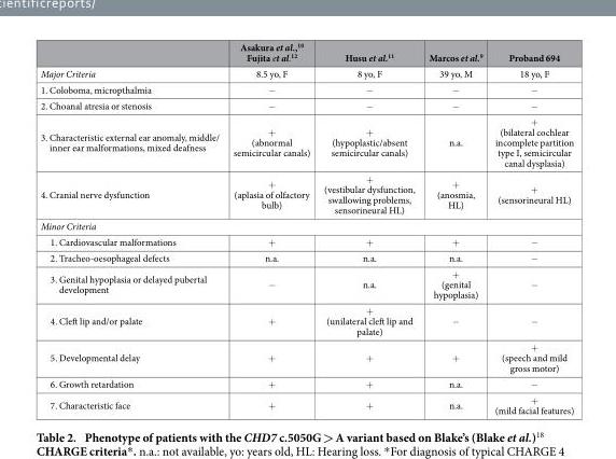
<table><thead><tr><td></td><td>Asakura et al.,<sup>10</sup> Fujita et al.<sup>12</sup></td><td>Husu et al.<sup>11</sup></td><td>Marcos et al.<sup>9</sup></td><td>Proband 694</td></tr></thead><tbody><tr><td>Major Criteria</td><td>8.5 yo, F</td><td>8 yo, F</td><td>39 yo, M</td><td>18 yo, F</td></tr><tr><td>1. Coloboma, micropthalmia</td><td>−</td><td>−</td><td>−</td><td>−</td></tr><tr><td>2. Choanal atresia or stenosis</td><td>−</td><td>−</td><td>−</td><td>−</td></tr><tr><td>3. Characteristic external ear anomaly, middle/ inner ear malformations, mixed deafness</td><td>+ (abnormal semicircular canals)</td><td>+ (hypoplastic/absent semicircular canals)</td><td>n.a.</td><td>+ (bilateral cochlear incomplete partition type I, semicircular canal dysplasia)</td></tr><tr><td>4. Cranial nerve dysfunction</td><td>+ (aplasia of olfactory bulb)</td><td>+ (vestibular dysfunction, swallowing problems, sensorineural HL)</td><td>+ (anosmia, HL)</td><td>+ (sensorineural HL)</td></tr><tr><td colspan="5">Minor Criteria</td></tr><tr><td>1. Cardiovascular malformations</td><td>+</td><td>+</td><td>+</td><td>−</td></tr><tr><td>2. Tracheo-oesophageal defects</td><td>n.a.</td><td>n.a.</td><td>n.a.</td><td>−</td></tr><tr><td>3. Genital hypoplasia or delayed pubertal development</td><td>−</td><td>n.a.</td><td>+ (genital hypoplasia)</td><td>−</td></tr><tr><td>4. Cleft lip and/or palate</td><td>+</td><td>+ (unilateral cleft lip and palate)</td><td>−</td><td>−</td></tr><tr><td>5. Developmental delay</td><td>+</td><td>+</td><td>+</td><td>+ (speech and mild gross motor)</td></tr><tr><td>6. Growth retardation</td><td>+</td><td>+</td><td>n.a.</td><td>−</td></tr><tr><td>7. Characteristic face</td><td>+</td><td>+</td><td>n.a.</td><td>+ (mild facial features)</td></tr></tbody></table>